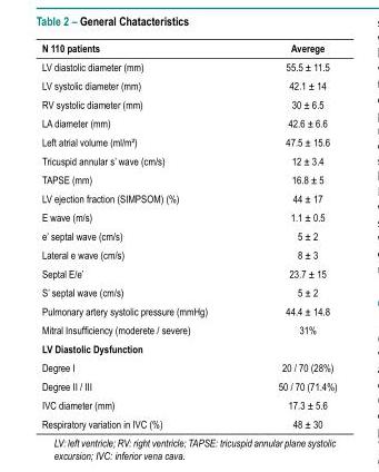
<table><thead><tr><td>N 110 patients</td><td>Averege</td></tr></thead><tbody><tr><td>LV diastolic diameter (mm)</td><td>55.5 ± 11.5</td></tr><tr><td>LV systolic diameter (mm)</td><td>42.1 ± 14</td></tr><tr><td>RV systolic diameter (mm)</td><td>30 ± 6.5</td></tr><tr><td>LA diameter (mm)</td><td>42.6 ± 6.6</td></tr><tr><td>Left atrial volume (ml/m²)</td><td>47.5 ± 15.6</td></tr><tr><td>Tricuspid annular s’ wave (cm/s)</td><td>12 ± 3.4</td></tr><tr><td>TAPSE (mm)</td><td>16.8 ± 5</td></tr><tr><td>LV ejection fraction (SIMPSOM) (%)</td><td>44 ± 17</td></tr><tr><td>E wave (m/s)</td><td>1.1 ± 0.5</td></tr><tr><td>e’ septal wave (cm/s)</td><td>5 ± 2</td></tr><tr><td>Lateral e wave (cm/s)</td><td>8 ± 3</td></tr><tr><td>Septal E/e’</td><td>23.7 ± 15</td></tr><tr><td>S’ septal wave (cm/s)</td><td>5 ± 2</td></tr><tr><td>Pulmonary artery systolic pressure (mmHg)</td><td>44.4 ± 14.8</td></tr><tr><td>Mitral Insufficiency (moderete / severe)</td><td>31%</td></tr><tr><td colspan="2">LV Diastolic Dysfunction</td></tr><tr><td>Degree I</td><td>20 / 70 (28%)</td></tr><tr><td>Degree II / III</td><td>50 / 70 (71.4%)</td></tr><tr><td>IVC diameter (mm)</td><td>17.3 ± 5.6</td></tr><tr><td>Respiratory variation in IVC (%)</td><td>48 ± 30</td></tr></tbody></table>